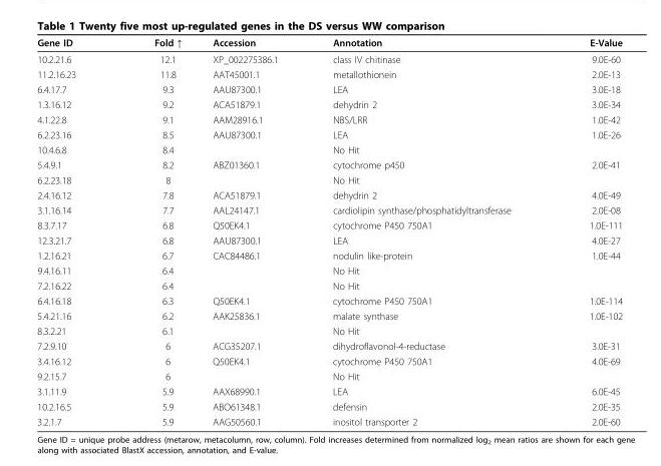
<table><thead><tr><td>Gene ID</td><td>Fold ↑</td><td>Accession</td><td>Annotation</td><td>E-Value</td></tr></thead><tbody><tr><td>10.2.21.6</td><td>12.1</td><td>XP_002275386.1</td><td>class IV chitinase</td><td>9.0E-60</td></tr><tr><td>11.2.16.23</td><td>11.8</td><td>AAT45001.1</td><td>metallothionein</td><td>2.0E-13</td></tr><tr><td>6.4.17.7</td><td>9.3</td><td>AAU87300.1</td><td>LEA</td><td>3.0E-18</td></tr><tr><td>1.3.16.12</td><td>9.2</td><td>ACA51879.1</td><td>dehydrin 2</td><td>3.0E-34</td></tr><tr><td>4.1.22.8</td><td>9.1</td><td>AAM28916.1</td><td>NBS/LRR</td><td>1.0E-42</td></tr><tr><td>6.2.23.16</td><td>8.5</td><td>AAU87300.1</td><td>LEA</td><td>1.0E-26</td></tr><tr><td>10.4.6.8</td><td>8.4</td><td></td><td>No Hit</td><td></td></tr><tr><td>5.4.9.1</td><td>8.2</td><td>ABZ01360.1</td><td>cytochrome p450</td><td>2.0E-41</td></tr><tr><td>6.2.23.18</td><td>8</td><td></td><td>No Hit</td><td></td></tr><tr><td>2.4.16.12</td><td>7.8</td><td>ACA51879.1</td><td>dehydrin 2</td><td>4.0E-49</td></tr><tr><td>3.1.16.14</td><td>7.7</td><td>AAL24147.1</td><td>cardiolipin synthase/phosphatidyltransferase</td><td>2.0E-08</td></tr><tr><td>8.3.7.17</td><td>6.8</td><td>Q50EK4.1</td><td>cytochrome P450 750A1</td><td>1.0E-111</td></tr><tr><td>12.3.21.7</td><td>6.8</td><td>AAU87300.1</td><td>LEA</td><td>4.0E-27</td></tr><tr><td>1.2.16.21</td><td>6.7</td><td>CAC84486.1</td><td>nodulin like-protein</td><td>1.0E-44</td></tr><tr><td>9.4.16.11</td><td>6.4</td><td></td><td>No Hit</td><td></td></tr><tr><td>7.2.16.22</td><td>6.4</td><td></td><td>No Hit</td><td></td></tr><tr><td>6.4.16.18</td><td>6.3</td><td>Q50EK4.1</td><td>cytochrome P450 750A1</td><td>1.0E-114</td></tr><tr><td>5.4.21.16</td><td>6.2</td><td>AAK25836.1</td><td>malate synthase</td><td>1.0E-102</td></tr><tr><td>8.3.2.21</td><td>6.1</td><td></td><td>No Hit</td><td></td></tr><tr><td>7.2.9.10</td><td>6</td><td>ACG35207.1</td><td>dihydroflavonol-4-reductase</td><td>3.0E-31</td></tr><tr><td>3.4.16.12</td><td>6</td><td>Q50EK4.1</td><td>cytochrome P450 750A1</td><td>4.0E-69</td></tr><tr><td>9.2.15.7</td><td>6</td><td></td><td>No Hit</td><td></td></tr><tr><td>3.1.11.9</td><td>5.9</td><td>AAX68990.1</td><td>LEA</td><td>6.0E-45</td></tr><tr><td>10.2.16.5</td><td>5.9</td><td>ABO61348.1</td><td>defensin</td><td>2.0E-35</td></tr><tr><td>3.2.1.7</td><td>5.9</td><td>AAG50560.1</td><td>inositol transporter 2</td><td>2.0E-60</td></tr></tbody></table>